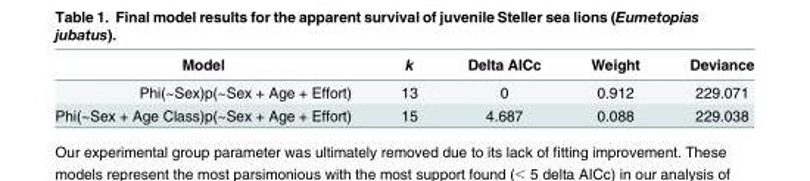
<table><thead><tr><td>Model</td><td>k</td><td>Delta AICc</td><td>Weight</td><td>Deviance</td></tr></thead><tbody><tr><td>Phi(~Sex)p(~Sex + Age + Effort)</td><td>13</td><td>0</td><td>0.912</td><td>229.071</td></tr><tr><td>Phi(~Sex + Age Class)p(~Sex + Age + Effort)</td><td>15</td><td>4.687</td><td>0.088</td><td>229.038</td></tr></tbody></table>